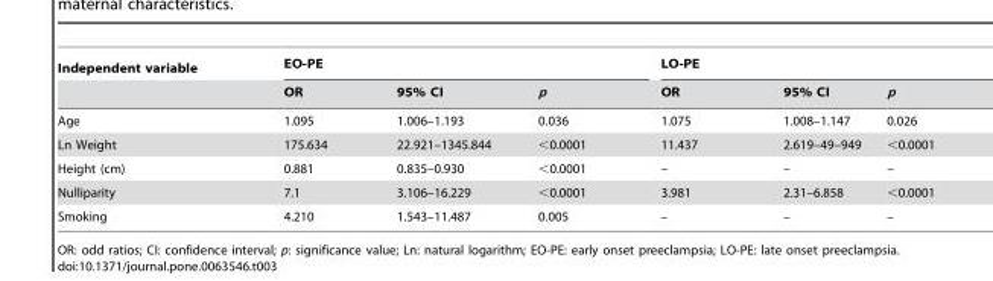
<table><thead><tr><td rowspan="2">Independent variable</td><td colspan="3">EO-PE</td><td colspan="3">LO-PE</td></tr><tr><td>OR</td><td>95% CI</td><td>p</td><td>OR</td><td>95% CI</td><td>p</td></tr></thead><tbody><tr><td>Age</td><td>1.095</td><td>1.006–1.193</td><td>0.036</td><td>1.075</td><td>1.008–1.147</td><td>0.026</td></tr><tr><td>Ln Weight</td><td>175.634</td><td>22.921–1345.844</td><td>&lt;0.0001</td><td>11.437</td><td>2.619–49–949</td><td>&lt;0.0001</td></tr><tr><td>Height (cm)</td><td>0.881</td><td>0.835–0.930</td><td>&lt;0.0001</td><td>–</td><td>–</td><td>–</td></tr><tr><td>Nulliparity</td><td>7.1</td><td>3.106–16.229</td><td>&lt;0.0001</td><td>3.981</td><td>2.31–6.858</td><td>&lt;0.0001</td></tr><tr><td>Smoking</td><td>4.210</td><td>1.543–11.487</td><td>0.005</td><td>–</td><td>–</td><td>–</td></tr></tbody></table>